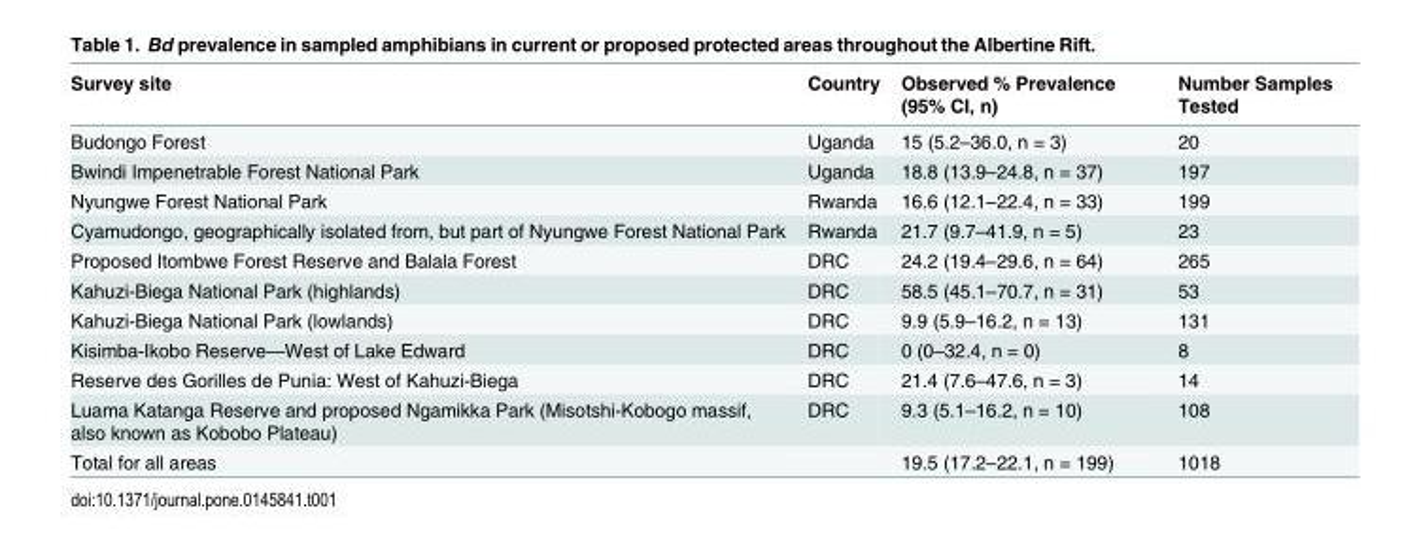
<table><thead><tr><td>Survey site</td><td>Country</td><td>Observed % Prevalence (95% CI, n)</td><td>Number Samples Tested</td></tr></thead><tbody><tr><td>Budongo Forest</td><td>Uganda</td><td>15 (5.2–36.0, n = 3)</td><td>20</td></tr><tr><td>Bwindi Impenetrable Forest National Park</td><td>Uganda</td><td>18.8 (13.9–24.8, n = 37)</td><td>197</td></tr><tr><td>Nyungwe Forest National Park</td><td>Rwanda</td><td>16.6 (12.1–22.4, n = 33)</td><td>199</td></tr><tr><td>Cyamudongo, geographically isolated from, but part of Nyungwe Forest National Park</td><td>Rwanda</td><td>21.7 (9.7–41.9, n = 5)</td><td>23</td></tr><tr><td>Proposed Itombwe Forest Reserve and Balala Forest</td><td>DRC</td><td>24.2 (19.4–29.6, n = 64)</td><td>265</td></tr><tr><td>Kahuzi-Biega National Park (highlands)</td><td>DRC</td><td>58.5 (45.1–70.7, n = 31)</td><td>53</td></tr><tr><td>Kahuzi-Biega National Park (lowlands)</td><td>DRC</td><td>9.9 (5.9–16.2, n = 13)</td><td>131</td></tr><tr><td>Kisimba-Ikobo Reserve—West of Lake Edward</td><td>DRC</td><td>0 (0–32.4, n = 0)</td><td>8</td></tr><tr><td>Reserve des Gorilles de Punia: West of Kahuzi-Biega</td><td>DRC</td><td>21.4 (7.6–47.6, n = 3)</td><td>14</td></tr><tr><td>Luama Katanga Reserve and proposed Ngamikka Park (Misotshi-Kobogo massif, also known as Kobobo Plateau)</td><td>DRC</td><td>9.3 (5.1–16.2, n = 10)</td><td>108</td></tr><tr><td>Total for all areas</td><td></td><td>19.5 (17.2–22.1, n = 199)</td><td>1018</td></tr></tbody></table>